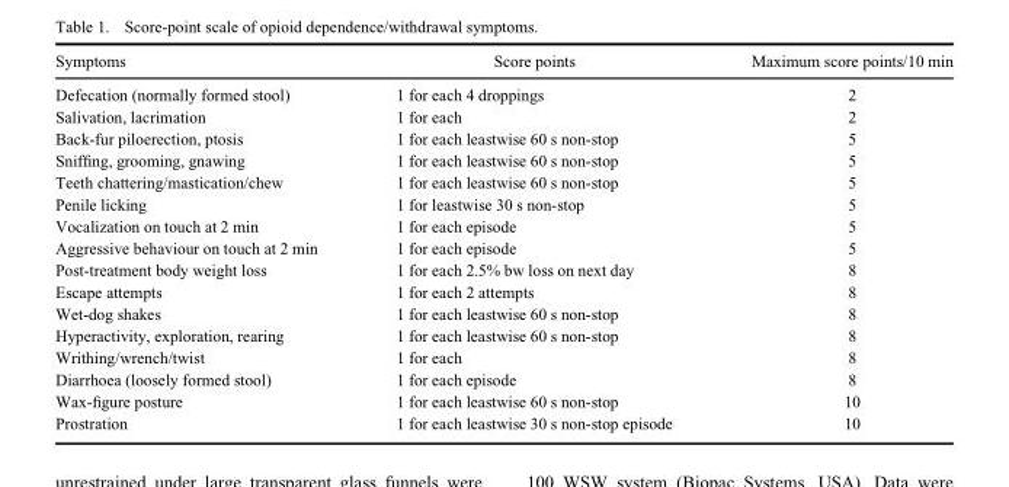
<table><thead><tr><td>Symptoms</td><td>Score points</td><td>Maximum score points/10 min</td></tr></thead><tbody><tr><td>Defecation (normally formed stool)</td><td>1 for each 4 droppings</td><td>2</td></tr><tr><td>Salivation, lacrimation</td><td>1 for each</td><td>2</td></tr><tr><td>Back-fur piloerection, ptosis</td><td>1 for each leastwise 60 s non-stop</td><td>5</td></tr><tr><td>Sniffing, grooming, gnawing</td><td>1 for each leastwise 60 s non-stop</td><td>5</td></tr><tr><td>Teeth chattering/mastication/chew</td><td>1 for each leastwise 60 s non-stop</td><td>5</td></tr><tr><td>Penile licking</td><td>1 for leastwise 30 s non-stop</td><td>5</td></tr><tr><td>Vocalization on touch at 2 min</td><td>1 for each episode</td><td>5</td></tr><tr><td>Aggressive behaviour on touch at 2 min</td><td>1 for each episode</td><td>5</td></tr><tr><td>Post-treatment body weight loss</td><td>1 for each 2.5% bw loss on next day</td><td>8</td></tr><tr><td>Escape attempts</td><td>1 for each 2 attempts</td><td>8</td></tr><tr><td>Wet-dog shakes</td><td>1 for each leastwise 60 s non-stop</td><td>8</td></tr><tr><td>Hyperactivity, exploration, rearing</td><td>1 for each leastwise 60 s non-stop</td><td>8</td></tr><tr><td>Writhing/wrench/twist</td><td>1 for each</td><td>8</td></tr><tr><td>Diarrhoea (loosely formed stool)</td><td>1 for each episode</td><td>8</td></tr><tr><td>Wax-figure posture</td><td>1 for each leastwise 60 s non-stop</td><td>10</td></tr><tr><td>Prostration</td><td>1 for each leastwise 30 s non-stop episode</td><td>10</td></tr></tbody></table>